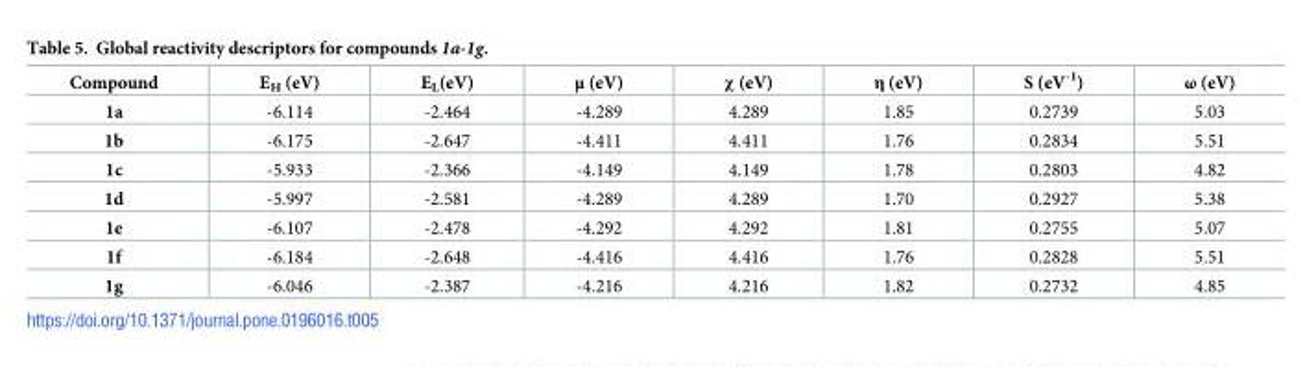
<table><thead><tr><td>Compound</td><td>E<sub>H</sub> (eV)</td><td>E<sub>L</sub>(eV)</td><td>μ (eV)</td><td>χ (eV)</td><td>η (eV)</td><td>S (eV<sup>-1</sup>)</td><td>ω (eV)</td></tr></thead><tbody><tr><td>1a</td><td>-6.114</td><td>-2.464</td><td>-4.289</td><td>4.289</td><td>1.85</td><td>0.2739</td><td>5.03</td></tr><tr><td>1b</td><td>-6.175</td><td>-2.647</td><td>-4.411</td><td>4.411</td><td>1.76</td><td>0.2834</td><td>5.51</td></tr><tr><td>1c</td><td>-5.933</td><td>-2.366</td><td>-4.149</td><td>4.149</td><td>1.78</td><td>0.2803</td><td>4.82</td></tr><tr><td>1d</td><td>-5.997</td><td>-2.581</td><td>-4.289</td><td>4.289</td><td>1.70</td><td>0.2927</td><td>5.38</td></tr><tr><td>1e</td><td>-6.107</td><td>-2.478</td><td>-4.292</td><td>4.292</td><td>1.81</td><td>0.2755</td><td>5.07</td></tr><tr><td>1f</td><td>-6.184</td><td>-2.648</td><td>-4.416</td><td>4.416</td><td>1.76</td><td>0.2828</td><td>5.51</td></tr><tr><td>1g</td><td>-6.046</td><td>-2.387</td><td>-4.216</td><td>4.216</td><td>1.82</td><td>0.2732</td><td>4.85</td></tr></tbody></table>